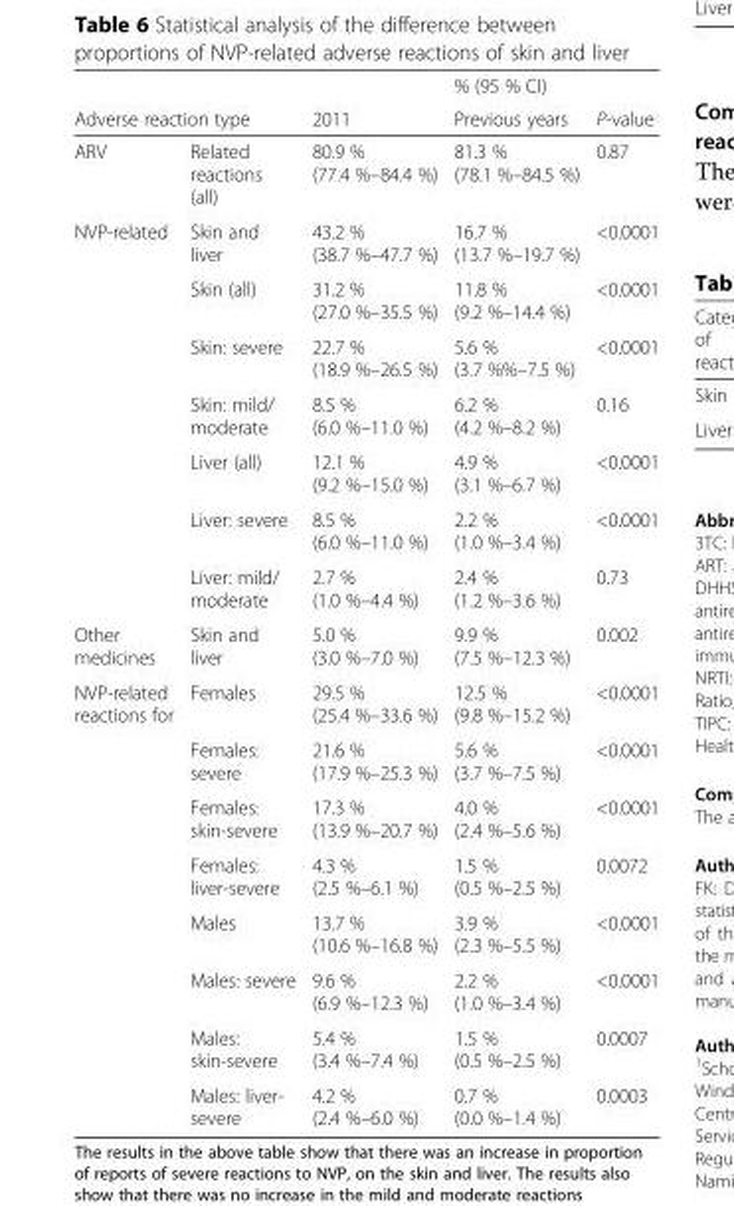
<table><thead><tr><td></td><td></td><td rowspan="2">2011</td><td rowspan="2">% (95 % CI) Previous years</td><td rowspan="2">P-value</td></tr><tr><td colspan="2">Adverse reaction type</td></tr></thead><tbody><tr><td>ARV</td><td>Related reactions (all)</td><td>80.9 % (77.4 %–84.4 %)</td><td>81.3 % (78.1 %–84.5 %)</td><td>0.87</td></tr><tr><td rowspan="7">NVP-related</td><td>Skin and liver</td><td>43.2 % (38.7 %–47.7 %)</td><td>16.7 % (13.7 %–19.7 %)</td><td>&lt;0.0001</td></tr><tr><td>Skin (all)</td><td>31.2 % (27.0 %–35.5 %)</td><td>11.8 % (9.2 %–14.4 %)</td><td>&lt;0.0001</td></tr><tr><td>Skin: severe</td><td>22.7 % (18.9 %–26.5 %)</td><td>5.6 % (3.7 %%–7.5 %)</td><td>&lt;0.0001</td></tr><tr><td>Skin: mild/ moderate</td><td>8.5 % (6.0 %–11.0 %)</td><td>6.2 % (4.2 %–8.2 %)</td><td>0.16</td></tr><tr><td>Liver (all)</td><td>12.1 % (9.2 %–15.0 %)</td><td>4.9 % (3.1 %–6.7 %)</td><td>&lt;0.0001</td></tr><tr><td>Liver: severe</td><td>8.5 % (6.0 %–11.0 %)</td><td>2.2 % (1.0 %–3.4 %)</td><td>&lt;0.0001</td></tr><tr><td>Liver: mild/ moderate</td><td>2.7 % (1.0 %–4.4 %)</td><td>2.4 % (1.2 %–3.6 %)</td><td>0.73</td></tr><tr><td>Other medicines</td><td>Skin and liver</td><td>5.0 % (3.0 %–7.0 %)</td><td>9.9 % (7.5 %–12.3 %)</td><td>0.002</td></tr><tr><td rowspan="8">NVP-related reactions for</td><td>Females</td><td>29.5 % (25.4 %–33.6 %)</td><td>12.5 % (9.8 %–15.2 %)</td><td>&lt;0.0001</td></tr><tr><td>Females: severe</td><td>21.6 % (17.9 %–25.3 %)</td><td>5.6 % (3.7 %–7.5 %)</td><td>&lt;0.0001</td></tr><tr><td>Females: skin-severe</td><td>17.3 % (13.9 %–20.7 %)</td><td>4.0 % (2.4 %–5.6 %)</td><td>&lt;0.0001</td></tr><tr><td>Females: liver-severe</td><td>4.3 % (2.5 %–6.1 %)</td><td>1.5 % (0.5 %–2.5 %)</td><td>0.0072</td></tr><tr><td>Males</td><td>13.7 % (10.6 %–16.8 %)</td><td>3.9 % (2.3 %–5.5 %)</td><td>&lt;0.0001</td></tr><tr><td>Males: severe</td><td>9.6 % (6.9 %–12.3 %)</td><td>2.2 % (1.0 %–3.4 %)</td><td>&lt;0.0001</td></tr><tr><td>Males: skin-severe</td><td>5.4 % (3.4 %–7.4 %)</td><td>1.5 % (0.5 %–2.5 %)</td><td>0.0007</td></tr><tr><td>Males: liver- severe</td><td>4.2 % (2.4 %–6.0 %)</td><td>0.7 % (0.0 %–1.4 %)</td><td>0.0003</td></tr></tbody></table>